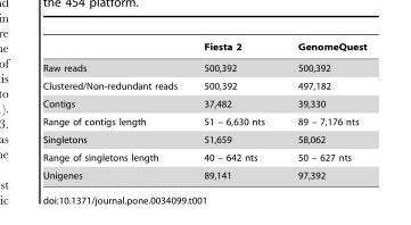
<table><thead><tr><td></td><td>Fiesta 2</td><td>GenomeQuest</td></tr></thead><tbody><tr><td>Raw reads</td><td>500,392</td><td>500,392</td></tr><tr><td>Clustered/Non-redundant reads</td><td>500,392</td><td>497,182</td></tr><tr><td>Contigs</td><td>37,482</td><td>39,330</td></tr><tr><td>Range of contigs length</td><td>51 – 6,630 nts</td><td>89 – 7,176 nts</td></tr><tr><td>Singletons</td><td>51,659</td><td>58,062</td></tr><tr><td>Range of singletons length</td><td>40 – 642 nts</td><td>50 – 627 nts</td></tr><tr><td>Unigenes</td><td>89,141</td><td>97,392</td></tr></tbody></table>